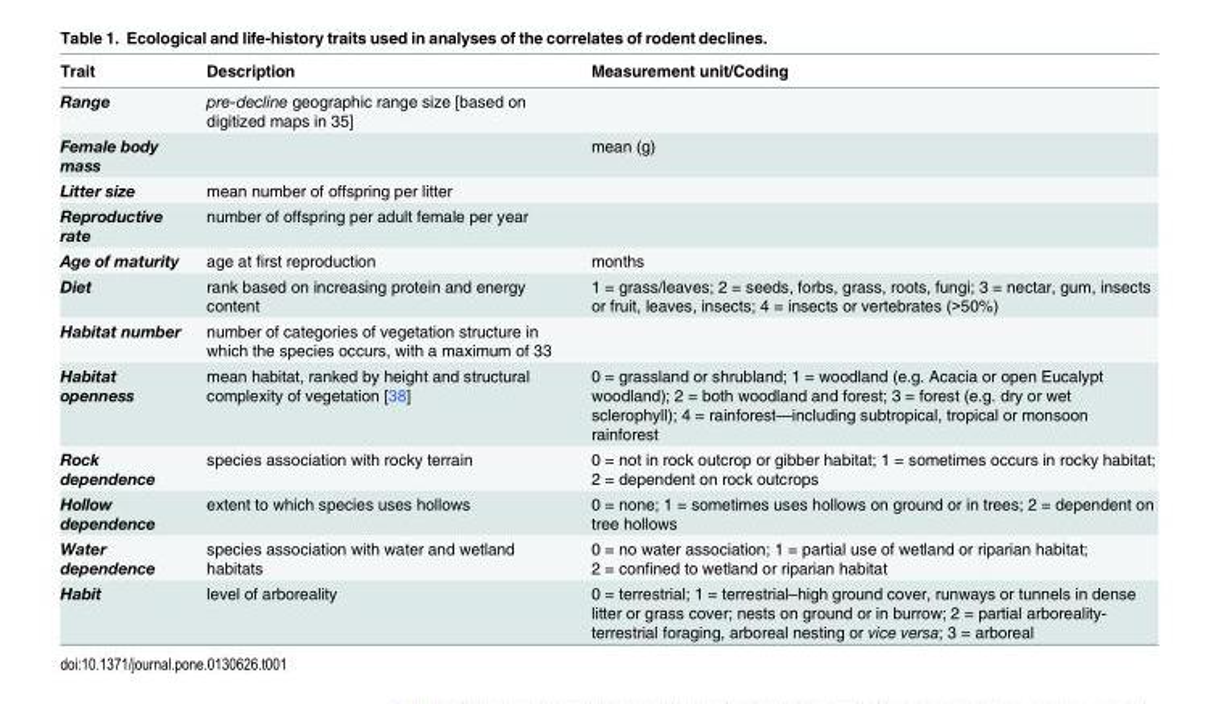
<table><thead><tr><td>Trait</td><td>Description</td><td>Measurement unit/Coding</td></tr></thead><tbody><tr><td>Range</td><td>pre-decline geographic range size [based on digitized maps in 35]</td><td></td></tr><tr><td>Female body mass</td><td></td><td>mean (g)</td></tr><tr><td>Litter size</td><td>mean number of offspring per litter</td><td></td></tr><tr><td>Reproductive rate</td><td>number of offspring per adult female per year</td><td></td></tr><tr><td>Age of maturity</td><td>age at first reproduction</td><td>months</td></tr><tr><td>Diet</td><td>rank based on increasing protein and energy content</td><td>1 = grass/leaves; 2 = seeds, forbs, grass, roots, fungi; 3 = nectar, gum, insects or fruit, leaves, insects; 4 = insects or vertebrates (&gt;50%)</td></tr><tr><td>Habitat number</td><td>number of categories of vegetation structure in which the species occurs, with a maximum of 33</td><td></td></tr><tr><td>Habitat openness</td><td>mean habitat, ranked by height and structural complexity of vegetation [38]</td><td>0 = grassland or shrubland; 1 = woodland (e.g. Acacia or open Eucalypt woodland); 2 = both woodland and forest; 3 = forest (e.g. dry or wet sclerophyll); 4 = rainforest—including subtropical, tropical or monsoon rainforest</td></tr><tr><td>Rock dependence</td><td>species association with rocky terrain</td><td>0 = not in rock outcrop or gibber habitat; 1 = sometimes occurs in rocky habitat; 2 = dependent on rock outcrops</td></tr><tr><td>Hollow dependence</td><td>extent to which species uses hollows</td><td>0 = none; 1 = sometimes uses hollows on ground or in trees; 2 = dependent on tree hollows</td></tr><tr><td>Water dependence</td><td>species association with water and wetland habitats</td><td>0 = no water association; 1 = partial use of wetland or riparian habitat; 2 = confined to wetland or riparian habitat</td></tr><tr><td>Habit</td><td>level of arboreality</td><td>0 = terrestrial; 1 = terrestrial–high ground cover, runways or tunnels in dense litter or grass cover; nests on ground or in burrow; 2 = partial arboreality- terrestrial foraging, arboreal nesting or vice versa; 3 = arboreal</td></tr></tbody></table>